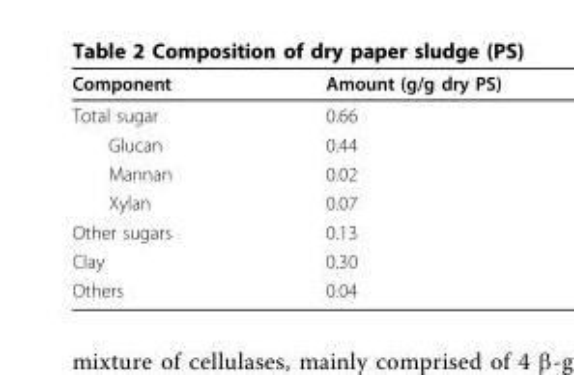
<table><thead><tr><td>Component</td><td>Amount (g/g dry PS)</td></tr></thead><tbody><tr><td>Total sugar</td><td>0.66</td></tr><tr><td>Glucan</td><td>0.44</td></tr><tr><td>Mannan</td><td>0.02</td></tr><tr><td>Xylan</td><td>0.07</td></tr><tr><td>Other sugars</td><td>0.13</td></tr><tr><td>Clay</td><td>0.30</td></tr><tr><td>Others</td><td>0.04</td></tr></tbody></table>